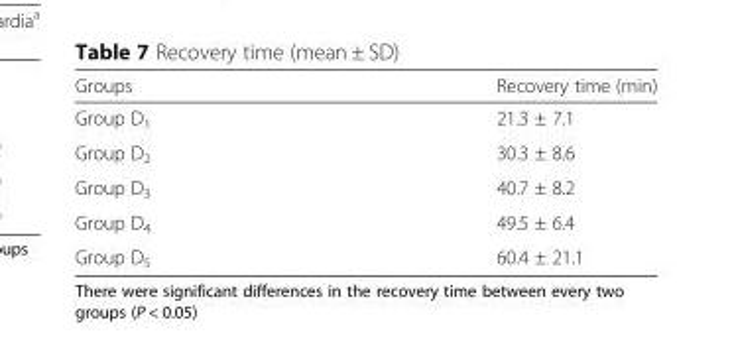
<table><thead><tr><td>Groups</td><td>Recovery time (min)</td></tr></thead><tbody><tr><td>Group D<sub>1</sub></td><td>21.3 ± 7.1</td></tr><tr><td>Group D<sub>2</sub></td><td>30.3 ± 8.6</td></tr><tr><td>Group D<sub>3</sub></td><td>40.7 ± 8.2</td></tr><tr><td>Group D<sub>4</sub></td><td>49.5 ± 6.4</td></tr><tr><td>Group D<sub>5</sub></td><td>60.4 ± 21.1</td></tr></tbody></table>